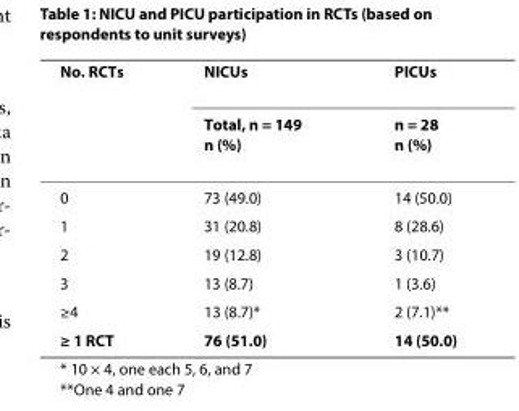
<table><thead><tr><td rowspan="2">No. RCTs</td><td rowspan="2">NICUs Total, n = 149 n (%)</td><td rowspan="2">PICUs n = 28 n (%)</td></tr><tr></tr></thead><tbody><tr><td>0</td><td>73 (49.0)</td><td>14 (50.0)</td></tr><tr><td>1</td><td>31 (20.8)</td><td>8 (28.6)</td></tr><tr><td>2</td><td>19 (12.8)</td><td>3 (10.7)</td></tr><tr><td>3</td><td>13 (8.7)</td><td>1 (3.6)</td></tr><tr><td>≥4</td><td>13 (8.7)*</td><td>2 (7.1)**</td></tr><tr><td>≥ 1 RCT</td><td>76 (51.0)</td><td>14 (50.0)</td></tr></tbody></table>